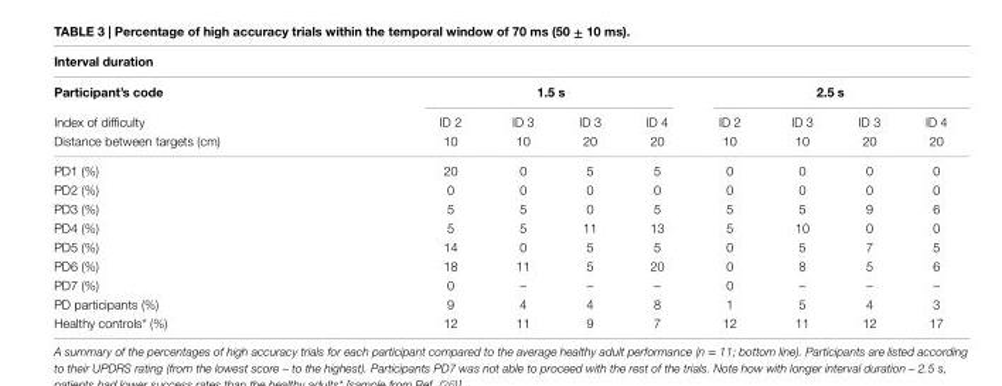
<table><thead><tr><td colspan="9">interval duration</td></tr><tr><td rowspan="2">Participant’s code Index of difficulty</td><td colspan="4">1.5 s</td><td colspan="4">2.5 s</td></tr><tr><td>ID 2</td><td>ID 3</td><td>ID 3</td><td>ID 4</td><td>ID 2</td><td>ID 3</td><td>ID 3</td><td>ID 4</td></tr></thead><tbody><tr><td>Distance between targets (cm)</td><td>10</td><td>10</td><td>20</td><td>20</td><td>10</td><td>10</td><td>20</td><td>20</td></tr><tr><td>PD1 (%)</td><td>20</td><td>0</td><td>5</td><td>5</td><td>0</td><td>0</td><td>0</td><td>0</td></tr><tr><td>PD2 (%)</td><td>0</td><td>0</td><td>0</td><td>0</td><td>0</td><td>0</td><td>0</td><td>0</td></tr><tr><td>PD3 (%)</td><td>5</td><td>5</td><td>0</td><td>5</td><td>5</td><td>5</td><td>9</td><td>6</td></tr><tr><td>PD4 (%)</td><td>5</td><td>5</td><td>11</td><td>13</td><td>5</td><td>10</td><td>0</td><td>0</td></tr><tr><td>PD5 (%)</td><td>14</td><td>0</td><td>5</td><td>5</td><td>0</td><td>5</td><td>7</td><td>5</td></tr><tr><td>PD6 (%)</td><td>18</td><td>11</td><td>5</td><td>20</td><td>0</td><td>8</td><td>5</td><td>6</td></tr><tr><td>PD7 (%)</td><td>0</td><td>–</td><td>–</td><td>–</td><td>0</td><td>–</td><td>–</td><td>–</td></tr><tr><td>PD participants (%)</td><td>9</td><td>4</td><td>4</td><td>8</td><td>1</td><td>5</td><td>4</td><td>3</td></tr><tr><td>Healthy controls* (%)</td><td>12</td><td>11</td><td>9</td><td>7</td><td>12</td><td>11</td><td>12</td><td>17</td></tr></tbody></table>